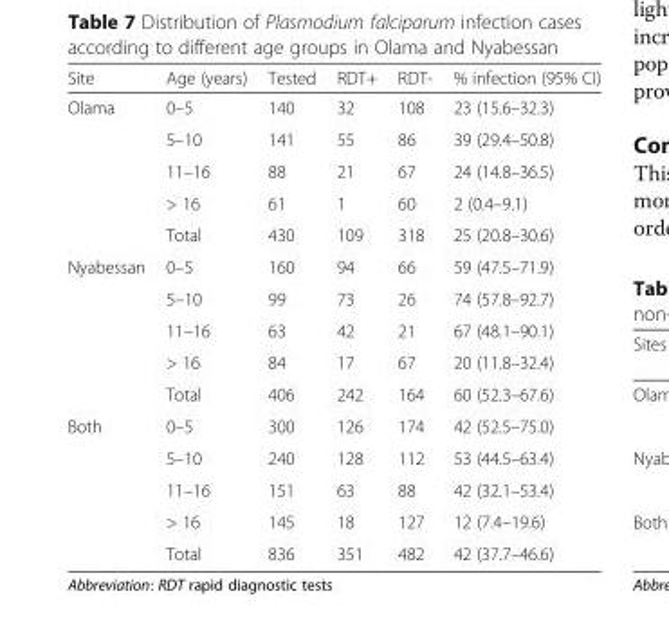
<table><thead><tr><td>Site</td><td>Age (years)</td><td>Tested</td><td>RDT+</td><td>RDT-</td><td>% infection (95% CI)</td></tr></thead><tbody><tr><td rowspan="5">Olama</td><td>0–5</td><td>140</td><td>32</td><td>108</td><td>23 (15.6–32.3)</td></tr><tr><td>5–10</td><td>141</td><td>55</td><td>86</td><td>39 (29.4–50.8)</td></tr><tr><td>11–16</td><td>88</td><td>21</td><td>67</td><td>24 (14.8–36.5)</td></tr><tr><td>&gt; 16</td><td>61</td><td>1</td><td>60</td><td>2 (0.4–9.1)</td></tr><tr><td>Total</td><td>430</td><td>109</td><td>318</td><td>25 (20.8–30.6)</td></tr><tr><td rowspan="5">Nyabessan</td><td>0–5</td><td>160</td><td>94</td><td>66</td><td>59 (47.5–71.9)</td></tr><tr><td>5–10</td><td>99</td><td>73</td><td>26</td><td>74 (57.8–92.7)</td></tr><tr><td>11–16</td><td>63</td><td>42</td><td>21</td><td>67 (48.1–90.1)</td></tr><tr><td>&gt; 16</td><td>84</td><td>17</td><td>67</td><td>20 (11.8–32.4)</td></tr><tr><td>Total</td><td>406</td><td>242</td><td>164</td><td>60 (52.3–67.6)</td></tr><tr><td rowspan="5">Both</td><td>0–5</td><td>300</td><td>126</td><td>174</td><td>42 (52.5–75.0)</td></tr><tr><td>5–10</td><td>240</td><td>128</td><td>112</td><td>53 (44.5–63.4)</td></tr><tr><td>11–16</td><td>151</td><td>63</td><td>88</td><td>42 (32.1–53.4)</td></tr><tr><td>&gt; 16</td><td>145</td><td>18</td><td>127</td><td>12 (7.4–19.6)</td></tr><tr><td>Total</td><td>836</td><td>351</td><td>482</td><td>42 (37.7–46.6)</td></tr></tbody></table>